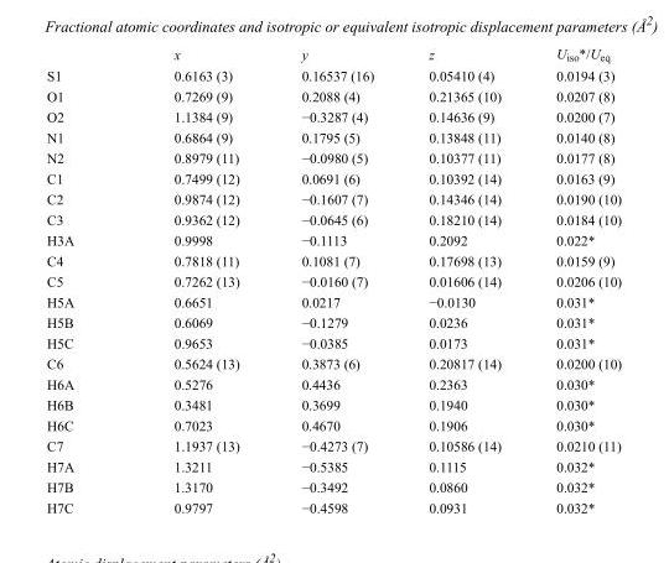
<table><thead><tr><td></td><td>x</td><td>y</td><td>z</td><td>U<sub>iso</sub>*/U<sub>eq</sub></td></tr></thead><tbody><tr><td>S1</td><td>0.6163 (3)</td><td>0.16537 (16)</td><td>0.05410 (4)</td><td>0.0194 (3)</td></tr><tr><td>O1</td><td>0.7269 (9)</td><td>0.2088 (4)</td><td>0.21365 (10)</td><td>0.0207 (8)</td></tr><tr><td>O2</td><td>1.1384 (9)</td><td>−0.3287 (4)</td><td>0.14636 (9)</td><td>0.0200 (7)</td></tr><tr><td>N1</td><td>0.6864 (9)</td><td>0.1795 (5)</td><td>0.13848 (11)</td><td>0.0140 (8)</td></tr><tr><td>N2</td><td>0.8979 (11)</td><td>−0.0980 (5)</td><td>0.10377 (11)</td><td>0.0177 (8)</td></tr><tr><td>C1</td><td>0.7499 (12)</td><td>0.0691 (6)</td><td>0.10392 (14)</td><td>0.0163 (9)</td></tr><tr><td>C2</td><td>0.9874 (12)</td><td>−0.1607 (7)</td><td>0.14346 (14)</td><td>0.0190 (10)</td></tr><tr><td>C3</td><td>0.9362 (12)</td><td>−0.0645 (6)</td><td>0.18210 (14)</td><td>0.0184 (10)</td></tr><tr><td>H3A</td><td>0.9998</td><td>−0.1113</td><td>0.2092</td><td>0.022*</td></tr><tr><td>C4</td><td>0.7818 (11)</td><td>0.1081 (7)</td><td>0.17698 (13)</td><td>0.0159 (9)</td></tr><tr><td>C5</td><td>0.7262 (13)</td><td>−0.0160 (7)</td><td>0.01606 (14)</td><td>0.0206 (10)</td></tr><tr><td>H5A</td><td>0.6651</td><td>0.0217</td><td>−0.0130</td><td>0.031*</td></tr><tr><td>H5B</td><td>0.6069</td><td>−0.1279</td><td>0.0236</td><td>0.031*</td></tr><tr><td>H5C</td><td>0.9653</td><td>−0.0385</td><td>0.0173</td><td>0.031*</td></tr><tr><td>C6</td><td>0.5624 (13)</td><td>0.3873 (6)</td><td>0.20817 (14)</td><td>0.0200 (10)</td></tr><tr><td>H6A</td><td>0.5276</td><td>0.4436</td><td>0.2363</td><td>0.030*</td></tr><tr><td>H6B</td><td>0.3481</td><td>0.3699</td><td>0.1940</td><td>0.030*</td></tr><tr><td>H6C</td><td>0.7023</td><td>0.4670</td><td>0.1906</td><td>0.030*</td></tr><tr><td>C7</td><td>1.1937 (13)</td><td>−0.4273 (7)</td><td>0.10586 (14)</td><td>0.0210 (11)</td></tr><tr><td>H7A</td><td>1.3211</td><td>−0.5385</td><td>0.1115</td><td>0.032*</td></tr><tr><td>H7B</td><td>1.3170</td><td>−0.3492</td><td>0.0860</td><td>0.032*</td></tr><tr><td>H7C</td><td>0.9797</td><td>−0.4598</td><td>0.0931</td><td>0.032*</td></tr></tbody></table>